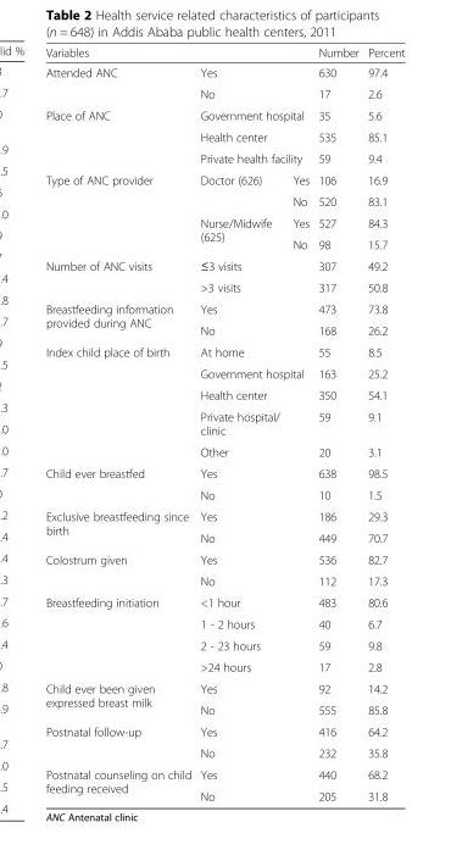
<table><thead><tr><td colspan="3">Variables</td><td>Number</td><td>Percent</td></tr></thead><tbody><tr><td rowspan="2">Attended ANC</td><td colspan="2">Yes</td><td>630</td><td>97.4</td></tr><tr><td colspan="2">No</td><td>17</td><td>2.6</td></tr><tr><td rowspan="3">Place of ANC</td><td colspan="2">Government hospital</td><td>35</td><td>5.6</td></tr><tr><td colspan="2">Health center</td><td>535</td><td>85.1</td></tr><tr><td colspan="2">Private health facility</td><td>59</td><td>9.4</td></tr><tr><td rowspan="4">Type of ANC provider</td><td rowspan="2">Doctor (626)</td><td>Yes</td><td>106</td><td>16.9</td></tr><tr><td>No</td><td>520</td><td>83.1</td></tr><tr><td rowspan="2">Nurse/Midwife (625)</td><td>Yes</td><td>527</td><td>84.3</td></tr><tr><td>No</td><td>98</td><td>15.7</td></tr><tr><td rowspan="2">Number of ANC visits</td><td colspan="2">≤3 visits</td><td>307</td><td>49.2</td></tr><tr><td colspan="2">&gt;3 visits</td><td>317</td><td>50.8</td></tr><tr><td rowspan="2">Breastfeeding information provided during ANC</td><td colspan="2">Yes</td><td>473</td><td>73.8</td></tr><tr><td colspan="2">No</td><td>168</td><td>26.2</td></tr><tr><td rowspan="5">Index child place of birth</td><td colspan="2">At home</td><td>55</td><td>8.5</td></tr><tr><td colspan="2">Government hospital</td><td>163</td><td>25.2</td></tr><tr><td colspan="2">Health center</td><td>350</td><td>54.1</td></tr><tr><td colspan="2">Private hospital/ clinic</td><td>59</td><td>9.1</td></tr><tr><td colspan="2">Other</td><td>20</td><td>3.1</td></tr><tr><td rowspan="2">Child ever breastfed</td><td colspan="2">Yes</td><td>638</td><td>98.5</td></tr><tr><td colspan="2">No</td><td>10</td><td>1.5</td></tr><tr><td rowspan="2">Exclusive breastfeeding since birth</td><td colspan="2">Yes</td><td>186</td><td>29.3</td></tr><tr><td colspan="2">No</td><td>449</td><td>70.7</td></tr><tr><td rowspan="2">Colostrum given</td><td colspan="2">Yes</td><td>536</td><td>82.7</td></tr><tr><td colspan="2">No</td><td>112</td><td>17.3</td></tr><tr><td rowspan="4">Breastfeeding initiation</td><td colspan="2">&lt;1 hour</td><td>483</td><td>80.6</td></tr><tr><td colspan="2">1 - 2 hours</td><td>40</td><td>6.7</td></tr><tr><td colspan="2">2 - 23 hours</td><td>59</td><td>9.8</td></tr><tr><td colspan="2">&gt;24 hours</td><td>17</td><td>2.8</td></tr><tr><td rowspan="2">Child ever been given expressed breast milk</td><td colspan="2">Yes</td><td>92</td><td>14.2</td></tr><tr><td colspan="2">No</td><td>555</td><td>85.8</td></tr><tr><td rowspan="2">Postnatal follow-up</td><td colspan="2">Yes</td><td>416</td><td>64.2</td></tr><tr><td colspan="2">No</td><td>232</td><td>35.8</td></tr><tr><td rowspan="2">Postnatal counseling on child feeding received</td><td colspan="2">Yes</td><td>440</td><td>68.2</td></tr><tr><td colspan="2">No</td><td>205</td><td>31.8</td></tr></tbody></table>